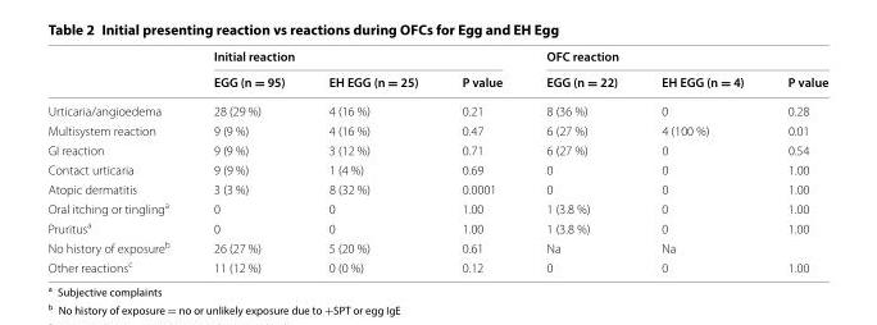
<table><thead><tr><td rowspan="2"></td><td colspan="3">Initial reaction</td><td colspan="3">OFC reaction</td></tr><tr><td>EGG (n = 95)</td><td>EH EGG (n = 25)</td><td>P value</td><td>EGG (n = 22)</td><td>EH EGG (n = 4)</td><td>P value</td></tr></thead><tbody><tr><td>Urticaria/angioedema</td><td>28 (29 %)</td><td>4 (16 %)</td><td>0.21</td><td>8 (36 %)</td><td>0</td><td>0.28</td></tr><tr><td>Multisystem reaction</td><td>9 (9 %)</td><td>4 (16 %)</td><td>0.47</td><td>6 (27 %)</td><td>4 (100 %)</td><td>0.01</td></tr><tr><td>GI reaction</td><td>9 (9 %)</td><td>3 (12 %)</td><td>0.71</td><td>6 (27 %)</td><td>0</td><td>0.54</td></tr><tr><td>Contact urticaria</td><td>9 (9 %)</td><td>1 (4 %)</td><td>0.69</td><td>0</td><td>0</td><td>1.00</td></tr><tr><td>Atopic dermatitis</td><td>3 (3 %)</td><td>8 (32 %)</td><td>0.0001</td><td>0</td><td>0</td><td>1.00</td></tr><tr><td>Oral itching or tingling<sup>a</sup></td><td>0</td><td>0</td><td>1.00</td><td>1 (3.8 %)</td><td>0</td><td>1.00</td></tr><tr><td>Pruritus<sup>a</sup></td><td>0</td><td>0</td><td>1.00</td><td>1 (3.8 %)</td><td>0</td><td>1.00</td></tr><tr><td>No history of exposure<sup>b</sup></td><td>26 (27 %)</td><td>5 (20 %)</td><td>0.61</td><td>Na</td><td>Na</td><td></td></tr><tr><td>Other reactions<sup>c</sup></td><td>11 (12 %)</td><td>0 (0 %)</td><td>0.12</td><td>0</td><td>0</td><td>1.00</td></tr></tbody></table>